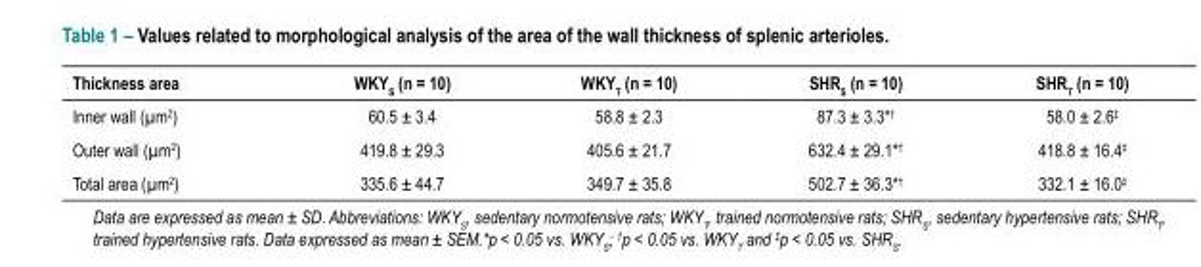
<table><thead><tr><td>Thickness area</td><td>WKY<sub>S</sub> (n = 10)</td><td>WKY<sub>T</sub> (n = 10)</td><td>SHR<sub>S</sub> (n = 10)</td><td>SHR<sub>T</sub> (n = 10)</td></tr></thead><tbody><tr><td>Inner wall (µm<sup>2</sup>)</td><td>60.5 ± 3.4</td><td>58.8 ± 2.3</td><td>87.3 ± 3.3*<sup>†</sup></td><td>58.0 ± 2.6<sup>‡</sup></td></tr><tr><td>Outer wall (µm<sup>2</sup>)</td><td>419.8 ± 29.3</td><td>405.6 ± 21.7</td><td>632.4 ± 29.1*<sup>†</sup></td><td>418.8 ± 16.4<sup>‡</sup></td></tr><tr><td>Total area (µm<sup>2</sup>)</td><td>335.6 ± 44.7</td><td>349.7 ± 35.8</td><td>502.7 ± 36.3*<sup>†</sup></td><td>332.1 ± 16.0<sup>‡</sup></td></tr></tbody></table>